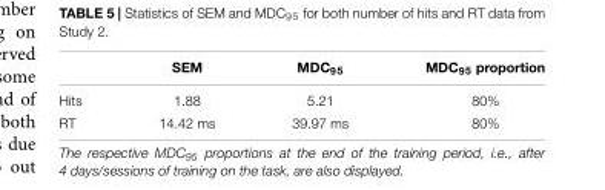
<table><thead><tr><td></td><td>SEM</td><td>MDC<sub>95</sub></td><td>MDC<sub>95</sub> proportion</td></tr></thead><tbody><tr><td>Hits</td><td>1.88</td><td>5.21</td><td>80%</td></tr><tr><td>RT</td><td>14.42 ms</td><td>39.97 ms</td><td>80%</td></tr></tbody></table>